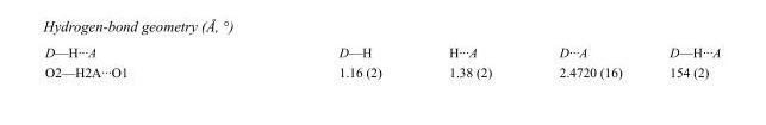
<table><tbody><tr><td>D—H···A</td><td>D—H</td><td>H···A</td><td>D···A</td><td>D—H···A</td></tr><tr><td>O2—H2A···O1</td><td>1.16 (2)</td><td>1.38 (2)</td><td>2.4720 (16)</td><td>154 (2)</td></tr></tbody></table>